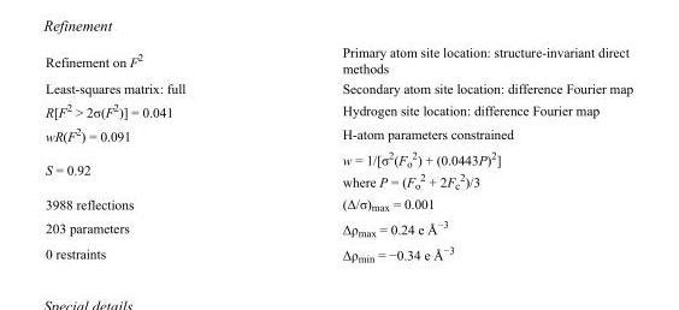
<table><tbody><tr><td>Refinement on F<sup>2</sup></td><td>Primary atom site location: structure-invariant direct methods</td></tr><tr><td>Least-squares matrix: full</td><td>Secondary atom site location: difference Fourier map</td></tr><tr><td>R[F<sup>2</sup> &gt; 2σ(F<sup>2</sup>)] = 0.041</td><td>Hydrogen site location: difference Fourier map</td></tr><tr><td>wR(F<sup>2</sup>) = 0.091</td><td>H-atom parameters constrained</td></tr><tr><td>S = 0.92</td><td>w = 1/[σ<sup>2</sup>(F<sub>o</sub> <sup>2</sup>) + (0.0443P)<sup>2</sup>] where P = (F<sub>o</sub> <sup>2</sup> + 2F<sub>c</sub> <sup>2</sup>)/3</td></tr><tr><td>3988 reflections</td><td>(Δ/σ)<sub>max</sub> = 0.001</td></tr><tr><td>203 parameters</td><td>Δρ<sub>max</sub> = 0.24 e Å<sup>−3</sup></td></tr><tr><td>0 restraints</td><td>Δρ<sub>min</sub> = −0.34 e Å<sup>−3</sup></td></tr></tbody></table>